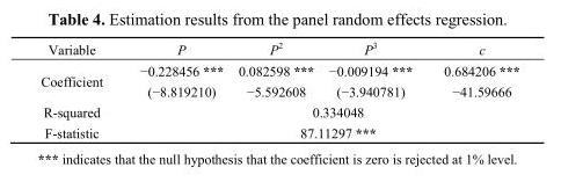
<table><tbody><tr><td>Variable</td><td>P</td><td>P<sup>2</sup></td><td>P<sup>3</sup></td><td>c</td></tr><tr><td rowspan="2">Coefficient</td><td>−0.228456 ***</td><td>0.082598 ***</td><td>−0.009194 ***</td><td>0.684206 ***</td></tr><tr><td>(−8.819210)</td><td>−5.592608</td><td>(−3.940781)</td><td>−41.59666</td></tr><tr><td>R-squared</td><td colspan="4">0.334048</td></tr><tr><td>F-statistic</td><td colspan="4">87.11297 ***</td></tr></tbody></table>